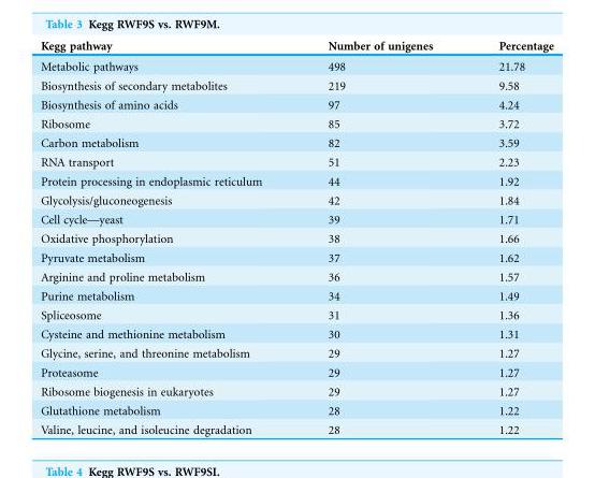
<table><thead><tr><td>Kegg pathway</td><td>Number of unigenes</td><td>Percentage</td></tr></thead><tbody><tr><td>Metabolic pathways</td><td>498</td><td>21.78</td></tr><tr><td>Biosynthesis of secondary metabolites</td><td>219</td><td>9.58</td></tr><tr><td>Biosynthesis of amino acids</td><td>97</td><td>4.24</td></tr><tr><td>Ribosome</td><td>85</td><td>3.72</td></tr><tr><td>Carbon metabolism</td><td>82</td><td>3.59</td></tr><tr><td>RNA transport</td><td>51</td><td>2.23</td></tr><tr><td>Protein processing in endoplasmic reticulum</td><td>44</td><td>1.92</td></tr><tr><td>Glycolysis/gluconeogenesis</td><td>42</td><td>1.84</td></tr><tr><td>Cell cycle—yeast</td><td>39</td><td>1.71</td></tr><tr><td>Oxidative phosphorylation</td><td>38</td><td>1.66</td></tr><tr><td>Pyruvate metabolism</td><td>37</td><td>1.62</td></tr><tr><td>Arginine and proline metabolism</td><td>36</td><td>1.57</td></tr><tr><td>Purine metabolism</td><td>34</td><td>1.49</td></tr><tr><td>Spliceosome</td><td>31</td><td>1.36</td></tr><tr><td>Cysteine and methionine metabolism</td><td>30</td><td>1.31</td></tr><tr><td>Glycine, serine, and threonine metabolism</td><td>29</td><td>1.27</td></tr><tr><td>Proteasome</td><td>29</td><td>1.27</td></tr><tr><td>Ribosome biogenesis in eukaryotes</td><td>29</td><td>1.27</td></tr><tr><td>Glutathione metabolism</td><td>28</td><td>1.22</td></tr><tr><td>Valine, leucine, and isoleucine degradation</td><td>28</td><td>1.22</td></tr></tbody></table>